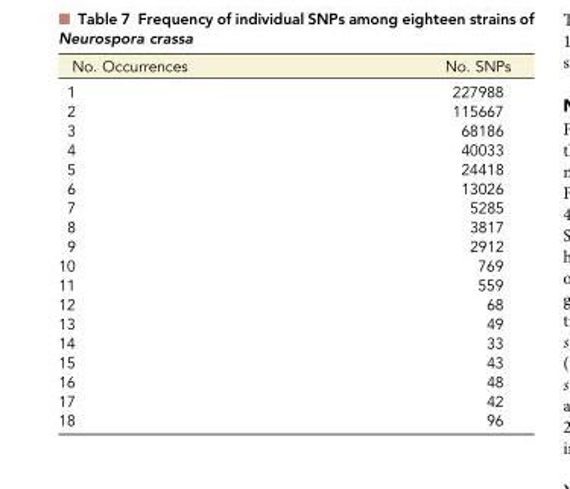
<table><thead><tr><td>No. Occurrences</td><td>No. SNPs</td></tr></thead><tbody><tr><td>1</td><td>227988</td></tr><tr><td>2</td><td>115667</td></tr><tr><td>3</td><td>68186</td></tr><tr><td>4</td><td>40033</td></tr><tr><td>5</td><td>24418</td></tr><tr><td>6</td><td>13026</td></tr><tr><td>7</td><td>5285</td></tr><tr><td>8</td><td>3817</td></tr><tr><td>9</td><td>2912</td></tr><tr><td>10</td><td>769</td></tr><tr><td>11</td><td>559</td></tr><tr><td>12</td><td>68</td></tr><tr><td>13</td><td>49</td></tr><tr><td>14</td><td>33</td></tr><tr><td>15</td><td>43</td></tr><tr><td>16</td><td>48</td></tr><tr><td>17</td><td>42</td></tr><tr><td>18</td><td>96</td></tr></tbody></table>